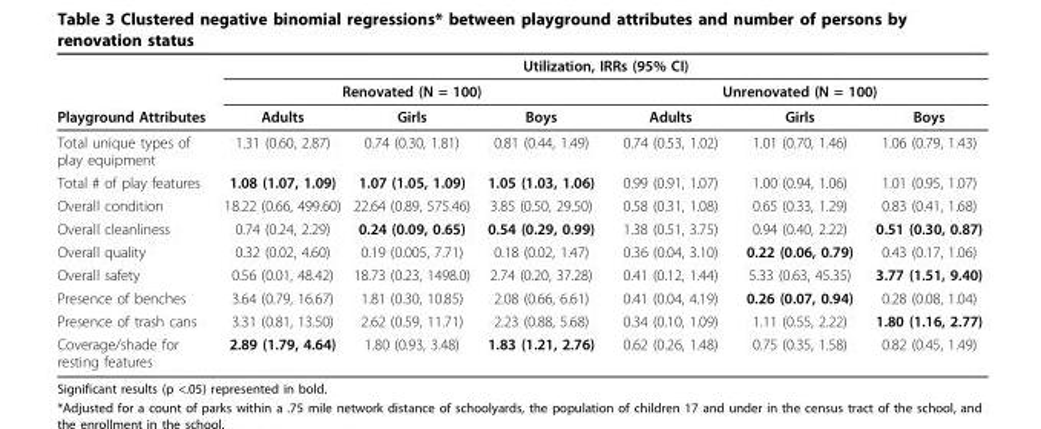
<table><thead><tr><td rowspan="3">Playground Attributes</td><td colspan="6">Utilization, IRRs (95% CI)</td></tr><tr><td colspan="3">Renovated (N = 100)</td><td colspan="3">Unrenovated (N = 100)</td></tr><tr><td>Adults</td><td>Girls</td><td>Boys</td><td>Adults</td><td>Girls</td><td>Boys</td></tr></thead><tbody><tr><td>Total unique types of play equipment</td><td>1.31 (0.60, 2.87)</td><td>0.74 (0.30, 1.81)</td><td>0.81 (0.44, 1.49)</td><td>0.74 (0.53, 1.02)</td><td>1.01 (0.70, 1.46)</td><td>1.06 (0.79, 1.43)</td></tr><tr><td>Total # of play features</td><td>1.08 (1.07, 1.09)</td><td>1.07 (1.05, 1.09)</td><td>1.05 (1.03, 1.06)</td><td>0.99 (0.91, 1.07)</td><td>1.00 (0.94, 1.06)</td><td>1.01 (0.95, 1.07)</td></tr><tr><td>Overall condition</td><td>18.22 (0.66, 499.60)</td><td>22.64 (0.89, 575.46)</td><td>3.85 (0.50, 29.50)</td><td>0.58 (0.31, 1.08)</td><td>0.65 (0.33, 1.29)</td><td>0.83 (0.41, 1.68)</td></tr><tr><td>Overall cleanliness</td><td>0.74 (0.24, 2.29)</td><td>0.24 (0.09, 0.65)</td><td>0.54 (0.29, 0.99)</td><td>1.38 (0.51, 3.75)</td><td>0.94 (0.40, 2.22)</td><td>0.51 (0.30, 0.87)</td></tr><tr><td>Overall quality</td><td>0.32 (0.02, 4.60)</td><td>0.19 (0.005, 7.71)</td><td>0.18 (0.02, 1.47)</td><td>0.36 (0.04, 3.10)</td><td>0.22 (0.06, 0.79)</td><td>0.43 (0.17, 1.06)</td></tr><tr><td>Overall safety</td><td>0.56 (0.01, 48.42)</td><td>18.73 (0.23, 1498.0)</td><td>2.74 (0.20, 37.28)</td><td>0.41 (0.12, 1.44)</td><td>5.33 (0.63, 45.35)</td><td>3.77 (1.51, 9.40)</td></tr><tr><td>Presence of benches</td><td>3.64 (0.79, 16.67)</td><td>1.81 (0.30, 10.85)</td><td>2.08 (0.66, 6.61)</td><td>0.41 (0.04, 4.19)</td><td>0.26 (0.07, 0.94)</td><td>0.28 (0.08, 1.04)</td></tr><tr><td>Presence of trash cans</td><td>3.31 (0.81, 13.50)</td><td>2.62 (0.59, 11.71)</td><td>2.23 (0.88, 5.68)</td><td>0.34 (0.10, 1.09)</td><td>1.11 (0.55, 2.22)</td><td>1.80 (1.16, 2.77)</td></tr><tr><td>Coverage/shade for resting features</td><td>2.89 (1.79, 4.64)</td><td>1.80 (0.93, 3.48)</td><td>1.83 (1.21, 2.76)</td><td>0.62 (0.26, 1.48)</td><td>0.75 (0.35, 1.58)</td><td>0.82 (0.45, 1.49)</td></tr></tbody></table>